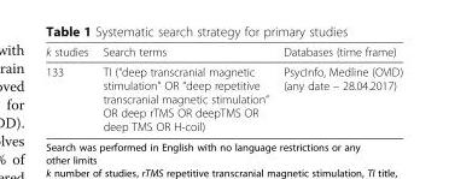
<table><thead><tr><td>k studies</td><td>Search terms</td><td>Databases (time frame)</td></tr></thead><tbody><tr><td>133</td><td>TI (“deep transcranial magnetic stimulation” OR “deep repetitive transcranial magnetic stimulation” OR deep rTMS OR deepTMS OR deep TMS OR H-coil)</td><td>PsycInfo, Medline (OVID) (any date – 28.04.2017)</td></tr></tbody></table>